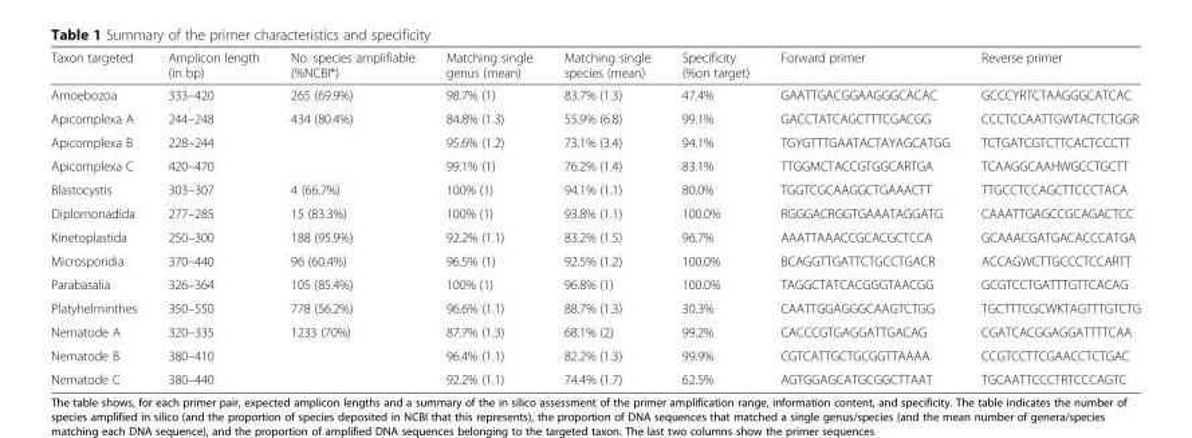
<table><thead><tr><td>Taxon targeted</td><td>Amplicon length (in bp)</td><td>No. species amplifiable (%NCBI*)</td><td>Matching single genus (mean)</td><td>Matching single species (mean)</td><td>Specificity (%on target)</td><td>Forward primer</td><td>Reverse primer</td></tr></thead><tbody><tr><td>Amoebozoa</td><td>333–420</td><td>265 (69.9%)</td><td>98.7% (1)</td><td>83.7% (1.3)</td><td>47.4%</td><td>GAATTGACGGAAGGGCACAC</td><td>GCCCYRTCTAAGGGCATCAC</td></tr><tr><td>Apicomplexa A</td><td>244–248</td><td rowspan="3">434 (80.4%)</td><td>84.8% (1.3)</td><td>55.9% (6.8)</td><td>99.1%</td><td>GACCTATCAGCTTTCGACGG</td><td>CCCTCCAATTGWTACTCTGGR</td></tr><tr><td>Apicomplexa B</td><td>228–244</td><td>95.6% (1.2)</td><td>73.1% (3.4)</td><td>94.1%</td><td>TGYGTTTGAATACTAYAGCATGG</td><td>TCTGATCGTCTTCACTCCCTT</td></tr><tr><td>Apicomplexa C</td><td>420–470</td><td>99.1% (1)</td><td>76.2% (1.4)</td><td>83.1%</td><td>TTGGMCTACCGTGGCARTGA</td><td>TCAAGGCAAHWGCCTGCTT</td></tr><tr><td>Blastocystis</td><td>303–307</td><td>4 (66.7%)</td><td>100% (1)</td><td>94.1% (1.1)</td><td>80.0%</td><td>TGGTCGCAAGGCTGAAACTT</td><td>TTGCCTCCAGCTTCCCTACA</td></tr><tr><td>Diplomonadida</td><td>277–285</td><td>15 (83.3%)</td><td>100% (1)</td><td>93.8% (1.1)</td><td>100.0%</td><td>RGGGACRGGTGAAATAGGATG</td><td>CAAATTGAGCCGCAGACTCC</td></tr><tr><td>Kinetoplastida</td><td>250–300</td><td>188 (95.9%)</td><td>92.2% (1.1)</td><td>83.2% (1.5)</td><td>96.7%</td><td>AAATTAAACCGCACGCTCCA</td><td>GCAAACGATGACACCCATGA</td></tr><tr><td>Microsporidia</td><td>370–440</td><td>96 (60.4%)</td><td>96.5% (1)</td><td>92.5% (1.2)</td><td>100.0%</td><td>BCAGGTTGATTCTGCCTGACR</td><td>ACCAGWCTTGCCCTCCARTT</td></tr><tr><td>Parabasalia</td><td>326–364</td><td>105 (85.4%)</td><td>100% (1)</td><td>96.8% (1)</td><td>100.0%</td><td>TAGGCTATCACGGGTAACGG</td><td>GCGTCCTGATTTGTTCACAG</td></tr><tr><td>Platyhelminthes</td><td>350–550</td><td>778 (56.2%)</td><td>96.6% (1.1)</td><td>88.7% (1.3)</td><td>30.3%</td><td>CAATTGGAGGGCAAGTCTGG</td><td>TGCTTTCGCWKTAGTTTGTCTG</td></tr><tr><td>Nematode A</td><td>320–335</td><td rowspan="3">1233 (70%)</td><td>87.7% (1.3)</td><td>68.1% (2)</td><td>99.2%</td><td>CACCCGTGAGGATTGACAG</td><td>CGATCACGGAGGATTTTCAA</td></tr><tr><td>Nematode B</td><td>380–410</td><td>96.4% (1.1)</td><td>82.2% (1.3)</td><td>99.9%</td><td>CGTCATTGCTGCGGTTAAAA</td><td>CCGTCCTTCGAACCTCTGAC</td></tr><tr><td>Nematode C</td><td>380–440</td><td>92.2% (1.1)</td><td>74.4% (1.7)</td><td>62.5%</td><td>AGTGGAGCATGCGGCTTAAT</td><td>TGCAATTCCCTRTCCCAGTC</td></tr></tbody></table>